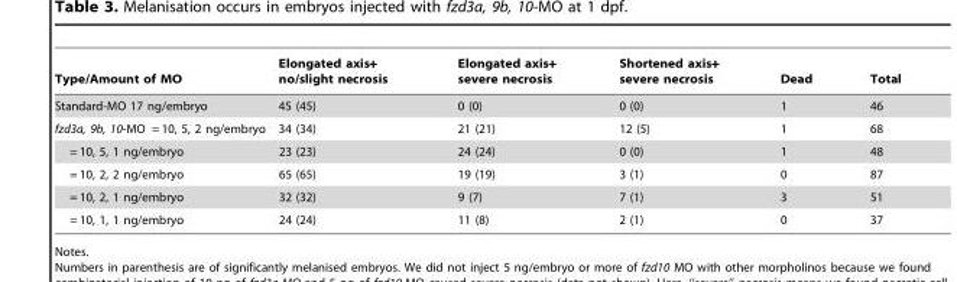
<table><thead><tr><td>Type/Amount of MO</td><td>Elongated axis+ no/slight necrosis</td><td>Elongated axis+ severe necrosis</td><td>Shortened axis+ severe necrosis</td><td>Dead</td><td>Total</td></tr></thead><tbody><tr><td>Standard-MO 17 ng/embryo</td><td>45 (45)</td><td>0 (0)</td><td>0 (0)</td><td>1</td><td>46</td></tr><tr><td>fzd3a, 9b, 10-MO = 10, 5, 2 ng/embryo</td><td>34 (34)</td><td>21 (21)</td><td>12 (5)</td><td>1</td><td>68</td></tr><tr><td>= 10, 5, 1 ng/embryo</td><td>23 (23)</td><td>24 (24)</td><td>0 (0)</td><td>1</td><td>48</td></tr><tr><td>= 10, 2, 2 ng/embryo</td><td>65 (65)</td><td>19 (19)</td><td>3 (1)</td><td>0</td><td>87</td></tr><tr><td>= 10, 2, 1 ng/embryo</td><td>32 (32)</td><td>9 (7)</td><td>7 (1)</td><td>3</td><td>51</td></tr><tr><td>= 10, 1, 1 ng/embryo</td><td>24 (24)</td><td>11 (8)</td><td>2 (1)</td><td>0</td><td>37</td></tr></tbody></table>